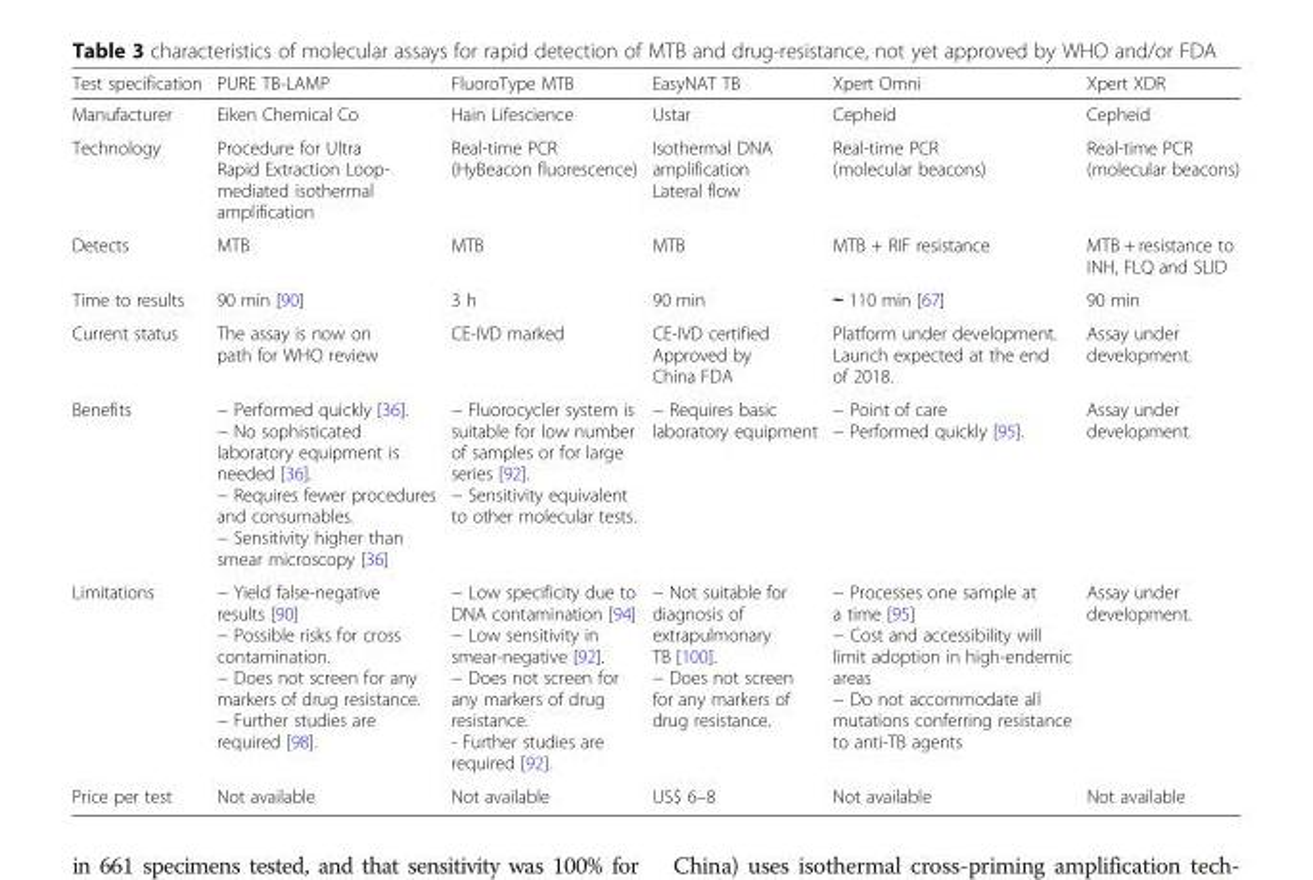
<table><thead><tr><td>Test specification</td><td>PURE TB-LAMP</td><td>FluoroType MTB</td><td>EasyNAT TB</td><td>Xpert Omni</td><td>Xpert XDR</td></tr></thead><tbody><tr><td>Manufacturer</td><td>Eiken Chemical Co</td><td>Hain Lifescience</td><td>Ustar</td><td>Cepheid</td><td>Cepheid</td></tr><tr><td>Technology</td><td>Procedure for Ultra Rapid Extraction Loop- mediated isothermal amplification</td><td>Real-time PCR (HyBeacon fluorescence)</td><td>Isothermal DNA amplification Lateral flow</td><td>Real-time PCR (molecular beacons)</td><td>Real-time PCR (molecular beacons)</td></tr><tr><td>Detects</td><td>MTB</td><td>MTB</td><td>MTB</td><td>MTB + RIF resistance</td><td>MTB + resistance to INH, FLQ and SLID</td></tr><tr><td>Time to results</td><td>90 min [90]</td><td>3 h</td><td>90 min</td><td>∼ 110 min [67]</td><td>90 min</td></tr><tr><td>Current status</td><td>The assay is now on path for WHO review</td><td>CE-IVD marked</td><td>CE-IVD certified Approved by China FDA</td><td>Platform under development. Launch expected at the end of 2018.</td><td>Assay under development.</td></tr><tr><td>Benefits</td><td>− Performed quickly [36]. − No sophisticated laboratory equipment is needed [36]. − Requires fewer procedures and consumables. − Sensitivity higher than smear microscopy [36]</td><td>− Fluorocycler system is suitable for low number of samples or for large series [92]. − Sensitivity equivalent to other molecular tests.</td><td>− Requires basic laboratory equipment</td><td>− Point of care − Performed quickly [95].</td><td>Assay under development.</td></tr><tr><td>Limitations</td><td>− Yield false-negative results [90] − Possible risks for cross contamination. − Does not screen for any markers of drug resistance. − Further studies are required [98].</td><td>− Low specificity due to DNA contamination [94] − Low sensitivity in smear-negative [92]. − Does not screen for any markers of drug resistance. - Further studies are required [92].</td><td>− Not suitable for diagnosis of extrapulmonary TB [100]. − Does not screen for any markers of drug resistance.</td><td>− Processes one sample at a time [95] − Cost and accessibility will limit adoption in high-endemic areas − Do not accommodate all mutations conferring resistance to anti-TB agents</td><td>Assay under development.</td></tr><tr><td>Price per test</td><td>Not available</td><td>Not available</td><td>US$ 6–8</td><td>Not available</td><td>Not available</td></tr></tbody></table>